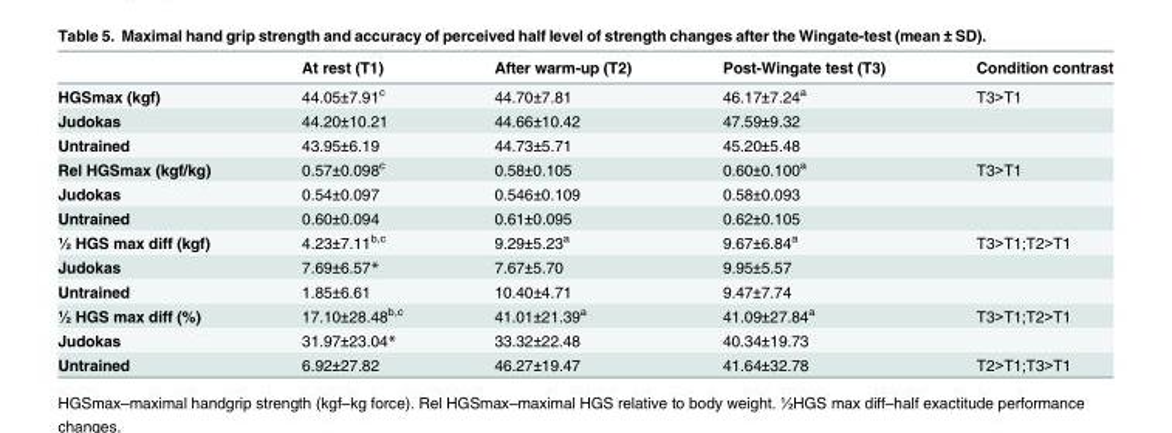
<table><thead><tr><td></td><td>At rest (T1)</td><td>After warm-up (T2)</td><td>Post-Wingate test (T3)</td><td>Condition contrast</td></tr></thead><tbody><tr><td>HGSmax (kgf)</td><td>44.05±7.91<sup>c</sup></td><td>44.70±7.81</td><td>46.17±7.24<sup>a</sup></td><td>T3&gt;T1</td></tr><tr><td>Judokas</td><td>44.20±10.21</td><td>44.66±10.42</td><td>47.59±9.32</td><td></td></tr><tr><td>Untrained</td><td>43.95±6.19</td><td>44.73±5.71</td><td>45.20±5.48</td><td></td></tr><tr><td>Rel HGSmax (kgf/kg)</td><td>0.57±0.098<sup>c</sup></td><td>0.58±0.105</td><td>0.60±0.100<sup>a</sup></td><td>T3&gt;T1</td></tr><tr><td>Judokas</td><td>0.54±0.097</td><td>0.546±0.109</td><td>0.58±0.093</td><td></td></tr><tr><td>Untrained</td><td>0.60±0.094</td><td>0.61±0.095</td><td>0.62±0.105</td><td></td></tr><tr><td>½ HGS max diff (kgf)</td><td>4.23±7.11<sup>b,c</sup></td><td>9.29±5.23<sup>a</sup></td><td>9.67±6.84<sup>a</sup></td><td>T3&gt;T1;T2&gt;T1</td></tr><tr><td>Judokas</td><td>7.69±6.57*</td><td>7.67±5.70</td><td>9.95±5.57</td><td></td></tr><tr><td>Untrained</td><td>1.85±6.61</td><td>10.40±4.71</td><td>9.47±7.74</td><td></td></tr><tr><td>½ HGS max diff (%)</td><td>17.10±28.48<sup>b,c</sup></td><td>41.01±21.39<sup>a</sup></td><td>41.09±27.84<sup>a</sup></td><td>T3&gt;T1;T2&gt;T1</td></tr><tr><td>Judokas</td><td>31.97±23.04*</td><td>33.32±22.48</td><td>40.34±19.73</td><td></td></tr><tr><td>Untrained</td><td>6.92±27.82</td><td>46.27±19.47</td><td>41.64±32.78</td><td>T2&gt;T1;T3&gt;T1</td></tr></tbody></table>